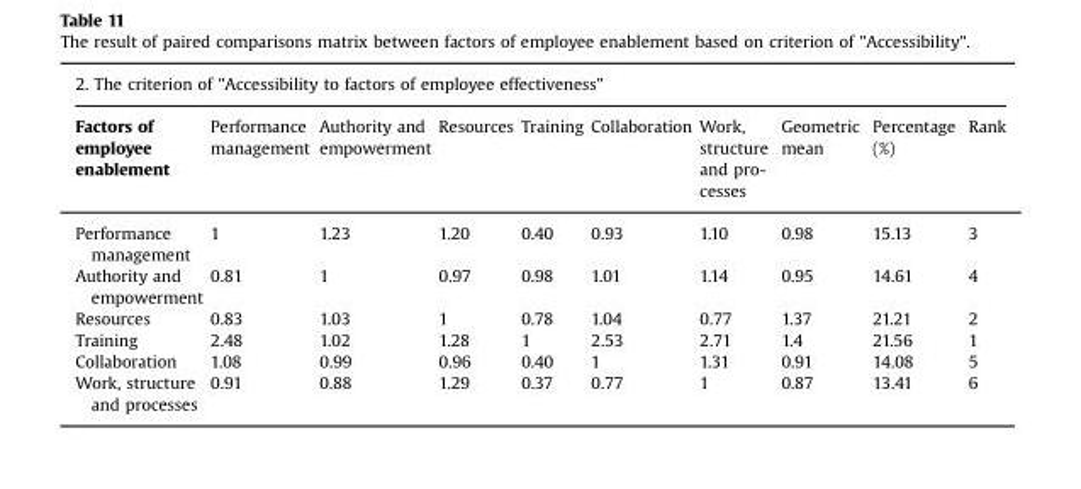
<table><thead><tr><td colspan="10">2. The criterion of &quot;Accessibility to factors of employee effectiveness&quot;</td></tr><tr><td>Factors of employee enablement</td><td>Performance management</td><td>Authority and empowerment</td><td>Resources</td><td>Training</td><td>Collaboration</td><td>Work, structure and pro- cesses</td><td>Geometric mean</td><td>Percentage (%)</td><td>Rank</td></tr></thead><tbody><tr><td>Performance management</td><td>1</td><td>1.23</td><td>1.20</td><td>0.40</td><td>0.93</td><td>1.10</td><td>0.98</td><td>15.13</td><td>3</td></tr><tr><td>Authority and empowerment</td><td>0.81</td><td>1</td><td>0.97</td><td>0.98</td><td>1.01</td><td>1.14</td><td>0.95</td><td>14.61</td><td>4</td></tr><tr><td>Resources</td><td>0.83</td><td>1.03</td><td>1</td><td>0.78</td><td>1.04</td><td>0.77</td><td>1.37</td><td>21.21</td><td>2</td></tr><tr><td>Training</td><td>2.48</td><td>1.02</td><td>1.28</td><td>1</td><td>2.53</td><td>2.71</td><td>1.4</td><td>21.56</td><td>1</td></tr><tr><td>Collaboration</td><td>1.08</td><td>0.99</td><td>0.96</td><td>0.40</td><td>1</td><td>1.31</td><td>0.91</td><td>14.08</td><td>5</td></tr><tr><td>Work, structure and processes</td><td>0.91</td><td>0.88</td><td>1.29</td><td>0.37</td><td>0.77</td><td>1</td><td>0.87</td><td>13.41</td><td>6</td></tr></tbody></table>